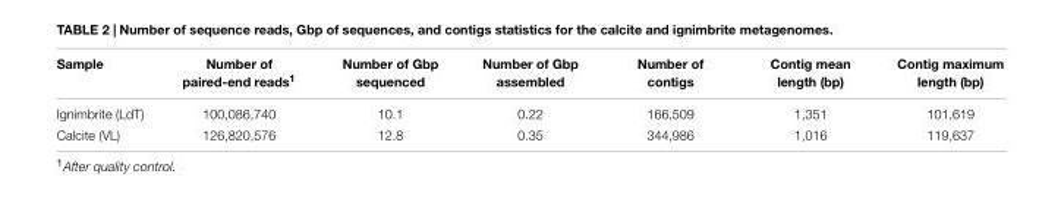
<table><thead><tr><td>Sample</td><td>Number of paired-end reads<sup>1</sup></td><td>Number of Gbp sequenced</td><td>Number of Gbp assembled</td><td>Number of contigs</td><td>Contig mean length (bp)</td><td>Contig maximum length (bp)</td></tr></thead><tbody><tr><td>Ignimbrite (LdT)</td><td>100,086,740</td><td>10.1</td><td>0.22</td><td>166,509</td><td>1,351</td><td>101,619</td></tr><tr><td>Calcite (VL)</td><td>126,820,576</td><td>12.8</td><td>0.35</td><td>344,986</td><td>1,016</td><td>119,637</td></tr></tbody></table>